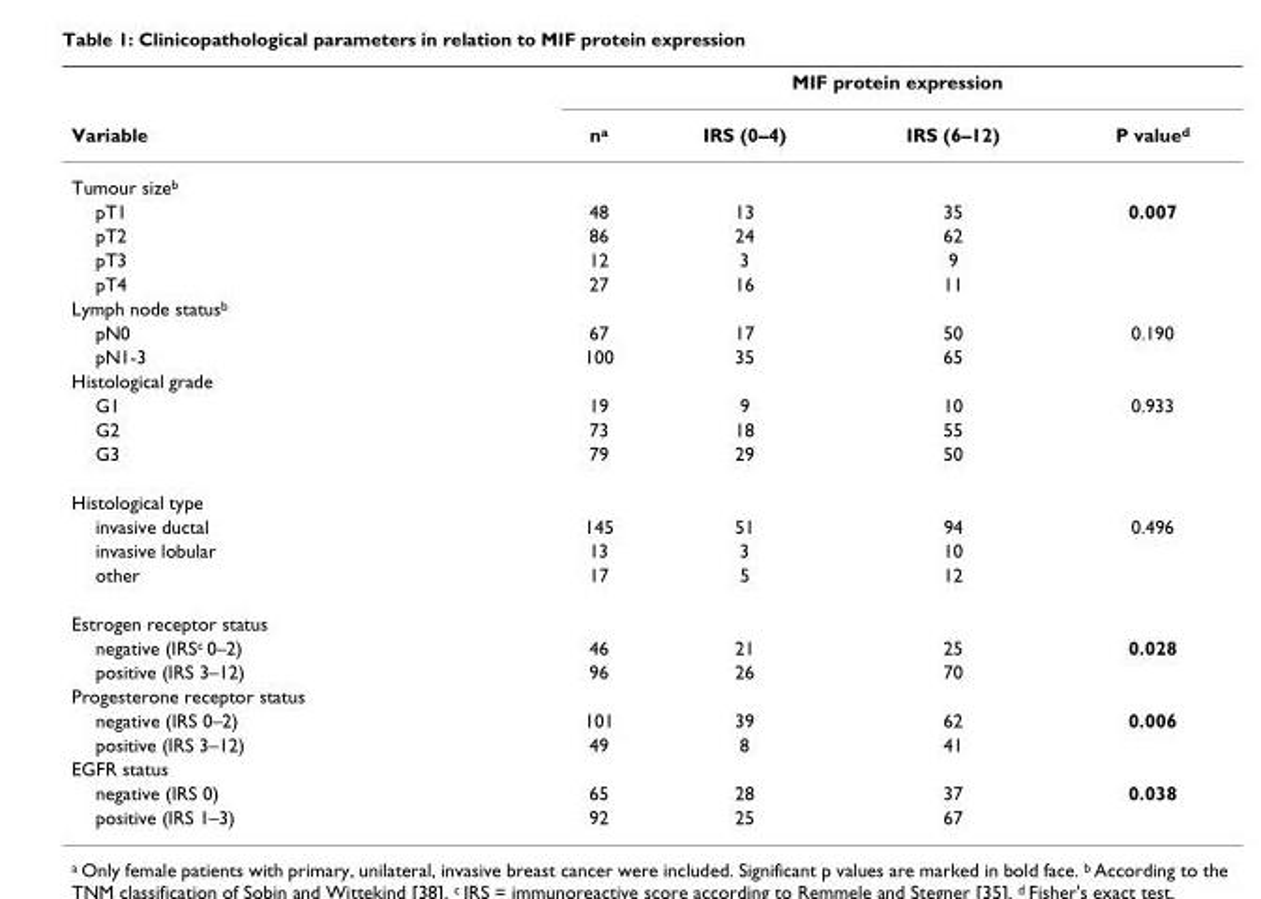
<table><thead><tr><td rowspan="2">Variable</td><td colspan="4">MIF protein expression</td></tr><tr><td>n<sup>a</sup></td><td>IRS (0–4)</td><td>IRS (6–12)</td><td>P value<sup>d</sup></td></tr></thead><tbody><tr><td colspan="5">Tumour size<sup>b</sup></td></tr><tr><td>pT1</td><td>48</td><td>13</td><td>35</td><td>0.007</td></tr><tr><td>pT2</td><td>86</td><td>24</td><td>62</td><td></td></tr><tr><td>pT3</td><td>12</td><td>3</td><td>9</td><td></td></tr><tr><td>pT4</td><td>27</td><td>16</td><td>11</td><td></td></tr><tr><td colspan="5">Lymph node status<sup>b</sup></td></tr><tr><td>pN0</td><td>67</td><td>17</td><td>50</td><td>0.190</td></tr><tr><td>pN1-3</td><td>100</td><td>35</td><td>65</td><td></td></tr><tr><td colspan="5">Histological grade</td></tr><tr><td>G1</td><td>19</td><td>9</td><td>10</td><td>0.933</td></tr><tr><td>G2</td><td>73</td><td>18</td><td>55</td><td></td></tr><tr><td>G3</td><td>79</td><td>29</td><td>50</td><td></td></tr><tr><td colspan="5">Histological type</td></tr><tr><td>invasive ductal</td><td>145</td><td>51</td><td>94</td><td>0.496</td></tr><tr><td>invasive lobular</td><td>13</td><td>3</td><td>10</td><td></td></tr><tr><td>other</td><td>17</td><td>5</td><td>12</td><td></td></tr><tr><td colspan="5">Estrogen receptor status</td></tr><tr><td>negative (IRS<sup>c</sup> 0–2)</td><td>46</td><td>21</td><td>25</td><td>0.028</td></tr><tr><td>positive (IRS 3–12)</td><td>96</td><td>26</td><td>70</td><td></td></tr><tr><td colspan="5">Progesterone receptor status</td></tr><tr><td>negative (IRS 0–2)</td><td>101</td><td>39</td><td>62</td><td>0.006</td></tr><tr><td>positive (IRS 3–12)</td><td>49</td><td>8</td><td>41</td><td></td></tr><tr><td colspan="5">EGFR status</td></tr><tr><td>negative (IRS 0)</td><td>65</td><td>28</td><td>37</td><td>0.038</td></tr><tr><td>positive (IRS 1–3)</td><td>92</td><td>25</td><td>67</td><td></td></tr></tbody></table>